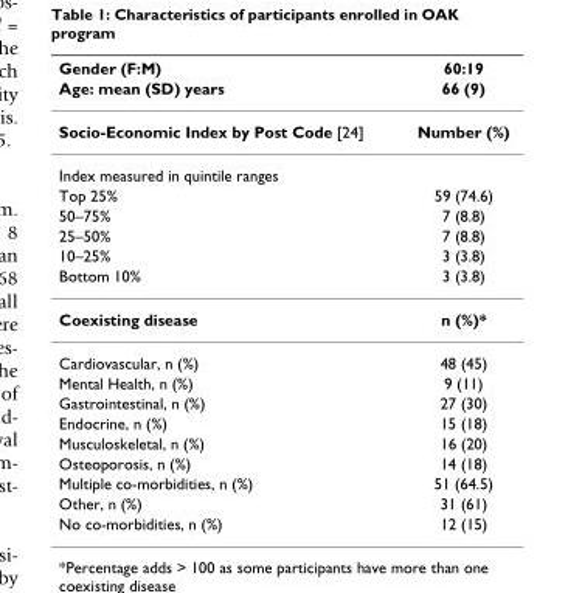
<table><thead><tr><td rowspan="2">Gender (F:M) Age: mean (SD) years</td><td rowspan="2">60:19 66 (9)</td></tr><tr></tr></thead><tbody><tr><td>Socio-Economic Index by Post Code [24]</td><td>Number (%)</td></tr><tr><td colspan="2">Index measured in quintile ranges</td></tr><tr><td>Top 25%</td><td>59 (74.6)</td></tr><tr><td>50–75%</td><td>7 (8.8)</td></tr><tr><td>25–50%</td><td>7 (8.8)</td></tr><tr><td>10–25%</td><td>3 (3.8)</td></tr><tr><td>Bottom 10%</td><td>3 (3.8)</td></tr><tr><td>Coexisting disease</td><td>n (%)*</td></tr><tr><td>Cardiovascular, n (%)</td><td>48 (45)</td></tr><tr><td>Mental Health, n (%)</td><td>9 (11)</td></tr><tr><td>Gastrointestinal, n (%)</td><td>27 (30)</td></tr><tr><td>Endocrine, n (%)</td><td>15 (18)</td></tr><tr><td>Musculoskeletal, n (%)</td><td>16 (20)</td></tr><tr><td>Osteoporosis, n (%)</td><td>14 (18)</td></tr><tr><td>Multiple co-morbidities, n (%)</td><td>51 (64.5)</td></tr><tr><td>Other, n (%)</td><td>31 (61)</td></tr><tr><td>No co-morbidities, n (%)</td><td>12 (15)</td></tr></tbody></table>